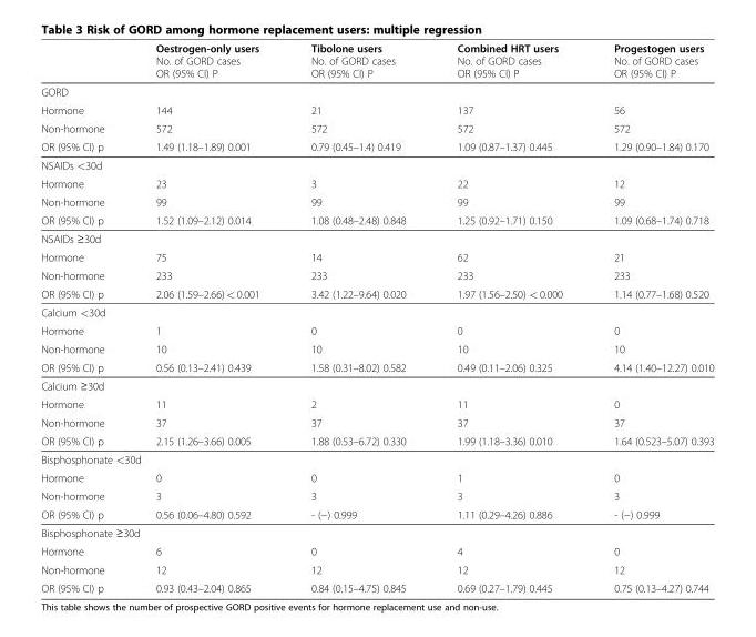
<table><thead><tr><td></td><td>Oestrogen-only users No. of GORD cases OR (95% CI) P</td><td>Tibolone users No. of GORD cases OR (95% CI) P</td><td>Combined HRT users No. of GORD cases OR (95% CI) P</td><td>Progestogen users No. of GORD cases OR (95% CI) P</td></tr></thead><tbody><tr><td colspan="5">GORD</td></tr><tr><td>Hormone</td><td>144</td><td>21</td><td>137</td><td>56</td></tr><tr><td>Non-hormone</td><td>572</td><td>572</td><td>572</td><td>572</td></tr><tr><td>OR (95% CI) p</td><td>1.49 (1.18–1.89) 0.001</td><td>0.79 (0.45–1.4) 0.419</td><td>1.09 (0.87–1.37) 0.445</td><td>1.29 (0.90–1.84) 0.170</td></tr><tr><td colspan="5">NSAIDs &lt;30d</td></tr><tr><td>Hormone</td><td>23</td><td>3</td><td>22</td><td>12</td></tr><tr><td>Non-hormone</td><td>99</td><td>99</td><td>99</td><td>99</td></tr><tr><td>OR (95% CI) p</td><td>1.52 (1.09–2.12) 0.014</td><td>1.08 (0.48–2.48) 0.848</td><td>1.25 (0.92–1.71) 0.150</td><td>1.09 (0.68–1.74) 0.718</td></tr><tr><td colspan="5">NSAIDs ≥30d</td></tr><tr><td>Hormone</td><td>75</td><td>14</td><td>62</td><td>21</td></tr><tr><td>Non-hormone</td><td>233</td><td>233</td><td>233</td><td>233</td></tr><tr><td>OR (95% CI) p</td><td>2.06 (1.59–2.66) &lt; 0.001</td><td>3.42 (1.22–9.64) 0.020</td><td>1.97 (1.56–2.50) &lt; 0.000</td><td>1.14 (0.77–1.68) 0.520</td></tr><tr><td colspan="5">Calcium &lt;30d</td></tr><tr><td>Hormone</td><td>1</td><td>0</td><td>0</td><td>0</td></tr><tr><td>Non-hormone</td><td>10</td><td>10</td><td>10</td><td>10</td></tr><tr><td>OR (95% CI) p</td><td>0.56 (0.13–2.41) 0.439</td><td>1.58 (0.31–8.02) 0.582</td><td>0.49 (0.11–2.06) 0.325</td><td>4.14 (1.40–12.27) 0.010</td></tr><tr><td colspan="5">Calcium ≥30d</td></tr><tr><td>Hormone</td><td>11</td><td>2</td><td>11</td><td>0</td></tr><tr><td>Non-hormone</td><td>37</td><td>37</td><td>37</td><td>37</td></tr><tr><td>OR (95% CI) p</td><td>2.15 (1.26–3.66) 0.005</td><td>1.88 (0.53–6.72) 0.330</td><td>1.99 (1.18–3.36) 0.010</td><td>1.64 (0.523–5.07) 0.393</td></tr><tr><td colspan="5">Bisphosphonate &lt;30d</td></tr><tr><td>Hormone</td><td>0</td><td>0</td><td>1</td><td>0</td></tr><tr><td>Non-hormone</td><td>3</td><td>3</td><td>3</td><td>3</td></tr><tr><td>OR (95% CI) p</td><td>0.56 (0.06–4.80) 0.592</td><td>- (−) 0.999</td><td>1.11 (0.29–4.26) 0.886</td><td>- (−) 0.999</td></tr><tr><td colspan="5">Bisphosphonate ≥30d</td></tr><tr><td>Hormone</td><td>6</td><td>0</td><td>4</td><td>0</td></tr><tr><td>Non-hormone</td><td>12</td><td>12</td><td>12</td><td>12</td></tr><tr><td>OR (95% CI) p</td><td>0.93 (0.43–2.04) 0.865</td><td>0.84 (0.15–4.75) 0.845</td><td>0.69 (0.27–1.79) 0.445</td><td>0.75 (0.13–4.27) 0.744</td></tr></tbody></table>